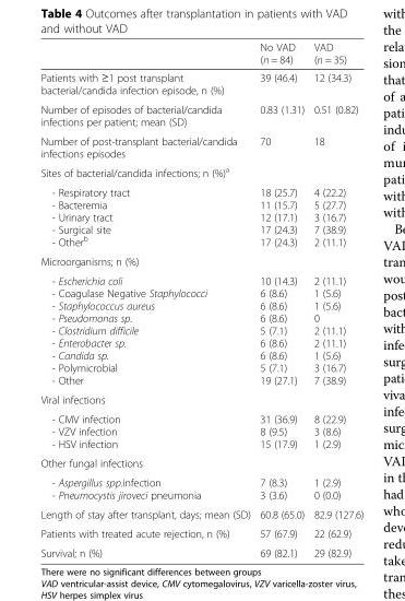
<table><thead><tr><td></td><td>No VAD (n = 84)</td><td>VAD (n = 35)</td></tr></thead><tbody><tr><td>Patients with ≥1 post transplant bacterial/candida infection episode, n (%)</td><td>39 (46.4)</td><td>12 (34.3)</td></tr><tr><td>Number of episodes of bacterial/candida infections per patient; mean (SD)</td><td>0.83 (1.31)</td><td>0.51 (0.82)</td></tr><tr><td>Number of post-transplant bacterial/candida infections episodes</td><td>70</td><td>18</td></tr><tr><td colspan="3">Sites of bacterial/candida infections; n (%)<sup>a</sup></td></tr><tr><td>- Respiratory tract - Bacteremia - Urinary tract - Surgical site - Other<sup>b</sup></td><td>18 (25.7) 11 (15.7) 12 (17.1) 17 (24.3) 17 (24.3)</td><td>4 (22.2) 5 (27.7) 3 (16.7) 7 (38.9) 2 (11.1)</td></tr><tr><td colspan="3">Microorganisms; n (%)</td></tr><tr><td>- Escherichia coli - Coagulase Negative Staphylococci - Staphylococcus aureus - Pseudomonas sp. - Clostridium difficile - Enterobacter sp. - Candida sp. - Polymicrobial - Other</td><td>10 (14.3) 6 (8.6) 6 (8.6) 6 (8.6) 5 (7.1) 6 (8.6) 6 (8.6) 5 (7.1) 19 (27.1)</td><td>2 (11.1) 1 (5.6) 1 (5.6) 0 2 (11.1) 2 (11.1) 1 (5.6) 3 (16.7) 7 (38.9)</td></tr><tr><td colspan="3">Viral infections</td></tr><tr><td>- CMV infection - VZV infection - HSV infection</td><td>31 (36.9) 8 (9.5) 15 (17.9)</td><td>8 (22.9) 3 (8.6) 1 (2.9)</td></tr><tr><td colspan="3">Other fungal infections</td></tr><tr><td>- Aspergillus spp.infection - Pneumocystis jiroveci pneumonia</td><td>7 (8.3) 3 (3.6)</td><td>1 (2.9) 0 (0.0)</td></tr><tr><td>Length of stay after transplant, days; mean (SD)</td><td>60.8 (65.0)</td><td>82.9 (127.6)</td></tr><tr><td>Patients with treated acute rejection, n (%)</td><td>57 (67.9)</td><td>22 (62.9)</td></tr><tr><td>Survival; n (%)</td><td>69 (82.1)</td><td>29 (82.9)</td></tr></tbody></table>